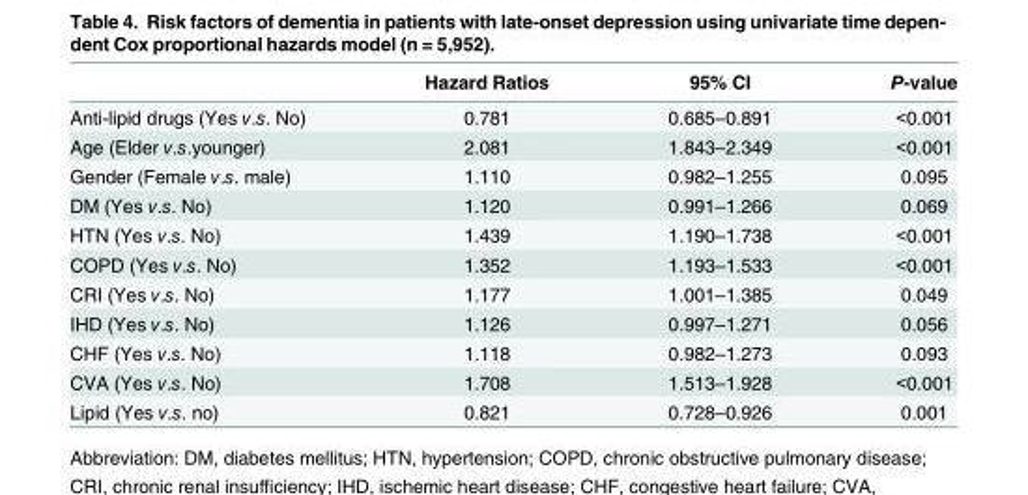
<table><thead><tr><td></td><td>Hazard Ratios</td><td>95% CI</td><td>P-value</td></tr></thead><tbody><tr><td>Anti-lipid drugs (Yes v.s. No)</td><td>0.781</td><td>0.685–0.891</td><td>&lt;0.001</td></tr><tr><td>Age (Elder v.s.younger)</td><td>2.081</td><td>1.843–2.349</td><td>&lt;0.001</td></tr><tr><td>Gender (Female v.s. male)</td><td>1.110</td><td>0.982–1.255</td><td>0.095</td></tr><tr><td>DM (Yes v.s. No)</td><td>1.120</td><td>0.991–1.266</td><td>0.069</td></tr><tr><td>HTN (Yes v.s. No)</td><td>1.439</td><td>1.190–1.738</td><td>&lt;0.001</td></tr><tr><td>COPD (Yes v.s. No)</td><td>1.352</td><td>1.193–1.533</td><td>&lt;0.001</td></tr><tr><td>CRI (Yes v.s. No)</td><td>1.177</td><td>1.001–1.385</td><td>0.049</td></tr><tr><td>IHD (Yes v.s. No)</td><td>1.126</td><td>0.997–1.271</td><td>0.056</td></tr><tr><td>CHF (Yes v.s. No)</td><td>1.118</td><td>0.982–1.273</td><td>0.093</td></tr><tr><td>CVA (Yes v.s. No)</td><td>1.708</td><td>1.513–1.928</td><td>&lt;0.001</td></tr><tr><td>Lipid (Yes v.s. no)</td><td>0.821</td><td>0.728–0.926</td><td>0.001</td></tr></tbody></table>